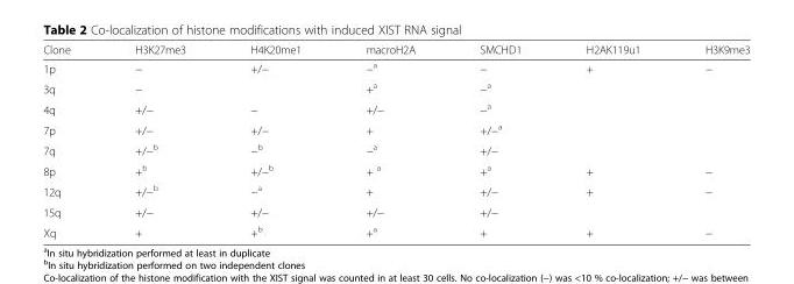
<table><thead><tr><td>Clone</td><td>H3K27me3</td><td>H4K20me1</td><td>macroH2A</td><td>SMCHD1</td><td>H2AK119u1</td><td>H3K9me3</td></tr></thead><tbody><tr><td>1p</td><td>−</td><td>+/−</td><td>−<sup>a</sup></td><td>−</td><td>+</td><td>−</td></tr><tr><td>3q</td><td>−</td><td></td><td>+<sup>a</sup></td><td>−<sup>a</sup></td><td></td><td></td></tr><tr><td>4q</td><td>+/−</td><td>−</td><td>+/−</td><td>−<sup>a</sup></td><td></td><td></td></tr><tr><td>7p</td><td>+/−</td><td>+/−</td><td>+</td><td>+/−<sup>a</sup></td><td></td><td></td></tr><tr><td>7q</td><td>+/−<sup>b</sup></td><td>−<sup>b</sup></td><td>−<sup>a</sup></td><td>+/−</td><td></td><td></td></tr><tr><td>8p</td><td>+<sup>b</sup></td><td>+/−<sup>b</sup></td><td>+ <sup>a</sup></td><td>+<sup>a</sup></td><td>+</td><td>−</td></tr><tr><td>12q</td><td>+/−<sup>b</sup></td><td>−<sup>a</sup></td><td>+</td><td>+/−</td><td>+</td><td>−</td></tr><tr><td>15q</td><td>+/−</td><td>+/−</td><td>+/−</td><td>+/−</td><td></td><td></td></tr><tr><td>Xq</td><td>+</td><td>+<sup>b</sup></td><td>+<sup>a</sup></td><td>+</td><td>+</td><td>−</td></tr></tbody></table>